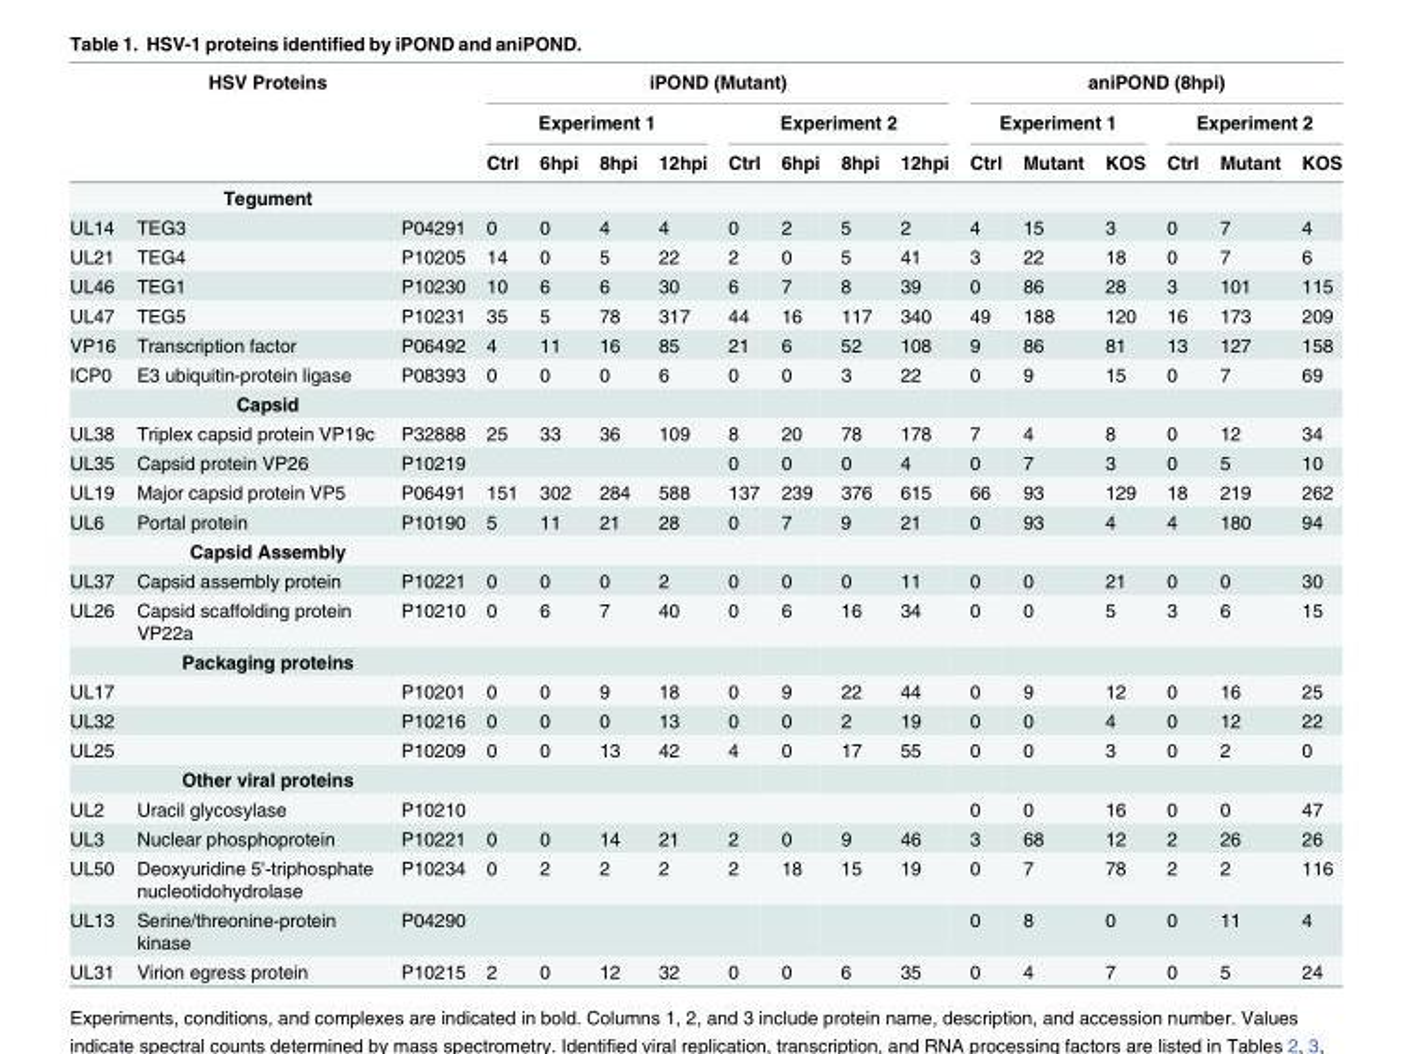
<table><thead><tr><td colspan="3">HSV Proteins</td><td colspan="8">iPOND (Mutant)</td><td colspan="6">aniPOND (8hpi)</td></tr><tr><td rowspan="2"></td><td rowspan="2"></td><td rowspan="2"></td><td colspan="4">Experiment 1</td><td colspan="4">Experiment 2</td><td colspan="3">Experiment 1</td><td colspan="3">Experiment 2</td></tr><tr><td>Ctrl</td><td>6hpi</td><td>8hpi</td><td>12hpi</td><td>Ctrl</td><td>6hpi</td><td>8hpi</td><td>12hpi</td><td>Ctrl</td><td>Mutant</td><td>KOS</td><td>Ctrl</td><td>Mutant</td><td>KOS</td></tr></thead><tbody><tr><td colspan="17">Tegument</td></tr><tr><td>UL14</td><td>TEG3</td><td>P04291</td><td>0</td><td>0</td><td>4</td><td>4</td><td>0</td><td>2</td><td>5</td><td>2</td><td>4</td><td>15</td><td>3</td><td>0</td><td>7</td><td>4</td></tr><tr><td>UL21</td><td>TEG4</td><td>P10205</td><td>14</td><td>0</td><td>5</td><td>22</td><td>2</td><td>0</td><td>5</td><td>41</td><td>3</td><td>22</td><td>18</td><td>0</td><td>7</td><td>6</td></tr><tr><td>UL46</td><td>TEG1</td><td>P10230</td><td>10</td><td>6</td><td>6</td><td>30</td><td>6</td><td>7</td><td>8</td><td>39</td><td>0</td><td>86</td><td>28</td><td>3</td><td>101</td><td>115</td></tr><tr><td>UL47</td><td>TEG5</td><td>P10231</td><td>35</td><td>5</td><td>78</td><td>317</td><td>44</td><td>16</td><td>117</td><td>340</td><td>49</td><td>188</td><td>120</td><td>16</td><td>173</td><td>209</td></tr><tr><td>VP16</td><td>Transcription factor</td><td>P06492</td><td>4</td><td>11</td><td>16</td><td>85</td><td>21</td><td>6</td><td>52</td><td>108</td><td>9</td><td>86</td><td>81</td><td>13</td><td>127</td><td>158</td></tr><tr><td>ICP0</td><td>E3 ubiquitin-protein ligase</td><td>P08393</td><td>0</td><td>0</td><td>0</td><td>6</td><td>0</td><td>0</td><td>3</td><td>22</td><td>0</td><td>9</td><td>15</td><td>0</td><td>7</td><td>69</td></tr><tr><td colspan="17">Capsid</td></tr><tr><td>UL38</td><td>Triplex capsid protein VP19c</td><td>P32888</td><td>25</td><td>33</td><td>36</td><td>109</td><td>8</td><td>20</td><td>78</td><td>178</td><td>7</td><td>4</td><td>8</td><td>0</td><td>12</td><td>34</td></tr><tr><td>UL35</td><td>Capsid protein VP26</td><td>P10219</td><td></td><td></td><td></td><td></td><td>0</td><td>0</td><td>0</td><td>4</td><td>0</td><td>7</td><td>3</td><td>0</td><td>5</td><td>10</td></tr><tr><td>UL19</td><td>Major capsid protein VP5</td><td>P06491</td><td>151</td><td>302</td><td>284</td><td>588</td><td>137</td><td>239</td><td>376</td><td>615</td><td>66</td><td>93</td><td>129</td><td>18</td><td>219</td><td>262</td></tr><tr><td>UL6</td><td>Portal protein</td><td>P10190</td><td>5</td><td>11</td><td>21</td><td>28</td><td>0</td><td>7</td><td>9</td><td>21</td><td>0</td><td>93</td><td>4</td><td>4</td><td>180</td><td>94</td></tr><tr><td colspan="17">Capsid Assembly</td></tr><tr><td>UL37</td><td>Capsid assembly protein</td><td>P10221</td><td>0</td><td>0</td><td>0</td><td>2</td><td>0</td><td>0</td><td>0</td><td>11</td><td>0</td><td>0</td><td>21</td><td>0</td><td>0</td><td>30</td></tr><tr><td>UL26</td><td>Capsid scaffolding protein VP22a</td><td>P10210</td><td>0</td><td>6</td><td>7</td><td>40</td><td>0</td><td>6</td><td>16</td><td>34</td><td>0</td><td>0</td><td>5</td><td>3</td><td>6</td><td>15</td></tr><tr><td colspan="17">Packaging proteins</td></tr><tr><td>UL17</td><td></td><td>P10201</td><td>0</td><td>0</td><td>9</td><td>18</td><td>0</td><td>9</td><td>22</td><td>44</td><td>0</td><td>9</td><td>12</td><td>0</td><td>16</td><td>25</td></tr><tr><td>UL32</td><td></td><td>P10216</td><td>0</td><td>0</td><td>0</td><td>13</td><td>0</td><td>0</td><td>2</td><td>19</td><td>0</td><td>0</td><td>4</td><td>0</td><td>12</td><td>22</td></tr><tr><td>UL25</td><td></td><td>P10209</td><td>0</td><td>0</td><td>13</td><td>42</td><td>4</td><td>0</td><td>17</td><td>55</td><td>0</td><td>0</td><td>3</td><td>0</td><td>2</td><td>0</td></tr><tr><td colspan="17">Other viral proteins</td></tr><tr><td>UL2</td><td>Uracil glycosylase</td><td>P10210</td><td></td><td></td><td></td><td></td><td></td><td></td><td></td><td></td><td>0</td><td>0</td><td>16</td><td>0</td><td>0</td><td>47</td></tr><tr><td>UL3</td><td>Nuclear phosphoprotein</td><td>P10221</td><td>0</td><td>0</td><td>14</td><td>21</td><td>2</td><td>0</td><td>9</td><td>46</td><td>3</td><td>68</td><td>12</td><td>2</td><td>26</td><td>26</td></tr><tr><td>UL50</td><td>Deoxyuridine 5&#x27;-triphosphate nucleotidohydrolase</td><td>P10234</td><td>0</td><td>2</td><td>2</td><td>2</td><td>2</td><td>18</td><td>15</td><td>19</td><td>0</td><td>7</td><td>78</td><td>2</td><td>2</td><td>116</td></tr><tr><td>UL13</td><td>Serine/threonine-protein kinase</td><td>P04290</td><td></td><td></td><td></td><td></td><td></td><td></td><td></td><td></td><td>0</td><td>8</td><td>0</td><td>0</td><td>11</td><td>4</td></tr><tr><td>UL31</td><td>Virion egress protein</td><td>P10215</td><td>2</td><td>0</td><td>12</td><td>32</td><td>0</td><td>0</td><td>6</td><td>35</td><td>0</td><td>4</td><td>7</td><td>0</td><td>5</td><td>24</td></tr></tbody></table>